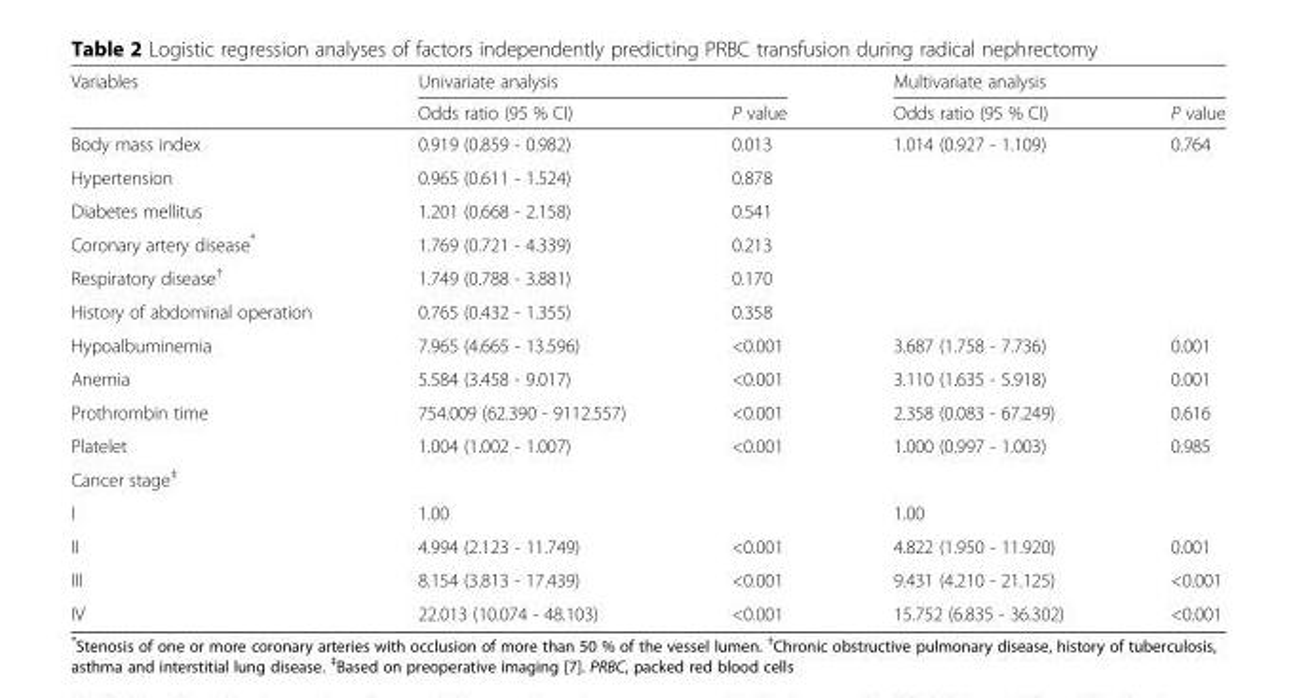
<table><thead><tr><td rowspan="2">Variables</td><td colspan="2">Univariate analysis</td><td colspan="2">Multivariate analysis</td></tr><tr><td>Odds ratio (95 % CI)</td><td>P value</td><td>Odds ratio (95 % CI)</td><td>P value</td></tr></thead><tbody><tr><td>Body mass index</td><td>0.919 (0.859 - 0.982)</td><td>0.013</td><td>1.014 (0.927 - 1.109)</td><td>0.764</td></tr><tr><td>Hypertension</td><td>0.965 (0.611 - 1.524)</td><td>0.878</td><td></td><td></td></tr><tr><td>Diabetes mellitus</td><td>1.201 (0.668 - 2.158)</td><td>0.541</td><td></td><td></td></tr><tr><td>Coronary artery disease*</td><td>1.769 (0.721 - 4.339)</td><td>0.213</td><td></td><td></td></tr><tr><td>Respiratory disease<sup>†</sup></td><td>1.749 (0.788 - 3.881)</td><td>0.170</td><td></td><td></td></tr><tr><td>History of abdominal operation</td><td>0.765 (0.432 - 1.355)</td><td>0.358</td><td></td><td></td></tr><tr><td>Hypoalbuminemia</td><td>7.965 (4.665 - 13.596)</td><td>&lt;0.001</td><td>3.687 (1.758 - 7.736)</td><td>0.001</td></tr><tr><td>Anemia</td><td>5.584 (3.458 - 9.017)</td><td>&lt;0.001</td><td>3.110 (1.635 - 5.918)</td><td>0.001</td></tr><tr><td>Prothrombin time</td><td>754.009 (62.390 - 9112.557)</td><td>&lt;0.001</td><td>2.358 (0.083 - 67.249)</td><td>0.616</td></tr><tr><td>Platelet</td><td>1.004 (1.002 - 1.007)</td><td>&lt;0.001</td><td>1.000 (0.997 - 1.003)</td><td>0.985</td></tr><tr><td colspan="5">Cancer stage<sup>‡</sup></td></tr><tr><td>I</td><td>1.00</td><td></td><td>1.00</td><td></td></tr><tr><td>II</td><td>4.994 (2.123 - 11.749)</td><td>&lt;0.001</td><td>4.822 (1.950 - 11.920)</td><td>0.001</td></tr><tr><td>III</td><td>8.154 (3.813 - 17.439)</td><td>&lt;0.001</td><td>9.431 (4.210 - 21.125)</td><td>&lt;0.001</td></tr><tr><td>IV</td><td>22.013 (10.074 - 48.103)</td><td>&lt;0.001</td><td>15.752 (6.835 - 36.302)</td><td>&lt;0.001</td></tr></tbody></table>